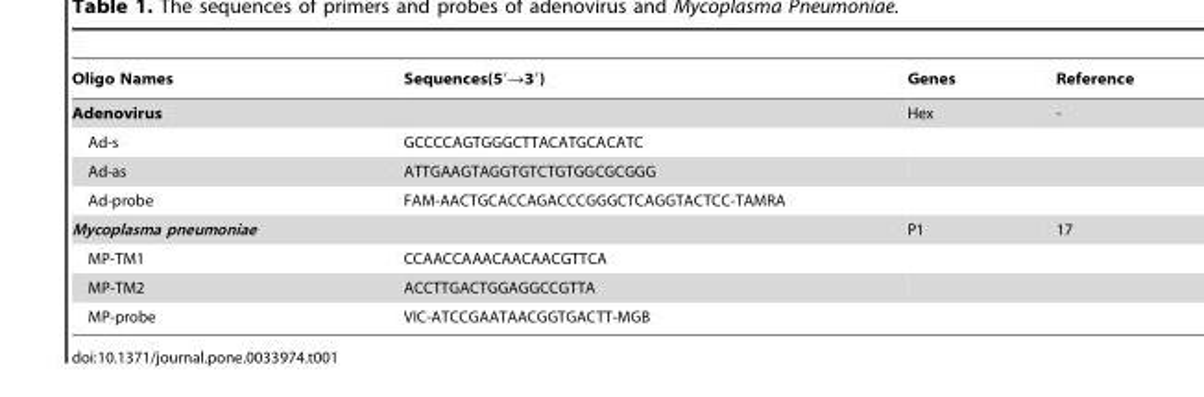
<table><thead><tr><td>Oligo Names</td><td>Sequences(5′→3′)</td><td>Genes</td><td>Reference</td></tr></thead><tbody><tr><td colspan="2">Adenovirus</td><td>Hex</td><td>-</td></tr><tr><td>Ad-s</td><td>GCCCCAGTGGGCTTACATGCACATC</td><td></td><td></td></tr><tr><td>Ad-as</td><td>ATTGAAGTAGGTGTCTGTGGCGCGGG</td><td></td><td></td></tr><tr><td>Ad-probe</td><td>FAM-AACTGCACCAGACCCGGGCTCAGGTACTCC-TAMRA</td><td></td><td></td></tr><tr><td colspan="2">Mycoplasma pneumoniae</td><td>P1</td><td>17</td></tr><tr><td>MP-TM1</td><td>CCAACCAAACAACAACGTTCA</td><td></td><td></td></tr><tr><td>MP-TM2</td><td>ACCTTGACTGGAGGCCGTTA</td><td></td><td></td></tr><tr><td>MP-probe</td><td>VIC-ATCCGAATAACGGTGACTT-MGB</td><td></td><td></td></tr></tbody></table>